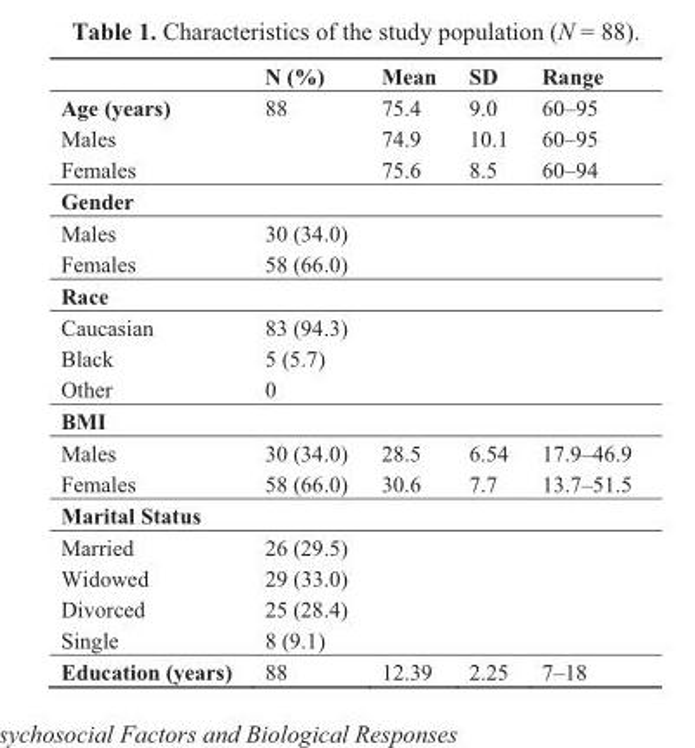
<table><thead><tr><td></td><td>N (%)</td><td>Mean</td><td>SD</td><td>Range</td></tr></thead><tbody><tr><td>Age (years)</td><td>88</td><td>75.4</td><td>9.0</td><td>60–95</td></tr><tr><td>Males</td><td></td><td>74.9</td><td>10.1</td><td>60–95</td></tr><tr><td>Females</td><td></td><td>75.6</td><td>8.5</td><td>60–94</td></tr><tr><td colspan="5">Gender</td></tr><tr><td>Males</td><td>30 (34.0)</td><td></td><td></td><td></td></tr><tr><td>Females</td><td>58 (66.0)</td><td></td><td></td><td></td></tr><tr><td colspan="5">Race</td></tr><tr><td>Caucasian</td><td>83 (94.3)</td><td></td><td></td><td></td></tr><tr><td>Black</td><td>5 (5.7)</td><td></td><td></td><td></td></tr><tr><td>Other</td><td>0</td><td></td><td></td><td></td></tr><tr><td colspan="5">BMI</td></tr><tr><td>Males</td><td>30 (34.0)</td><td>28.5</td><td>6.54</td><td>17.9–46.9</td></tr><tr><td>Females</td><td>58 (66.0)</td><td>30.6</td><td>7.7</td><td>13.7–51.5</td></tr><tr><td colspan="5">Marital Status</td></tr><tr><td>Married</td><td>26 (29.5)</td><td></td><td></td><td></td></tr><tr><td>Widowed</td><td>29 (33.0)</td><td></td><td></td><td></td></tr><tr><td>Divorced</td><td>25 (28.4)</td><td></td><td></td><td></td></tr><tr><td>Single</td><td>8 (9.1)</td><td></td><td></td><td></td></tr><tr><td>Education (years)</td><td>88</td><td>12.39</td><td>2.25</td><td>7–18</td></tr></tbody></table>